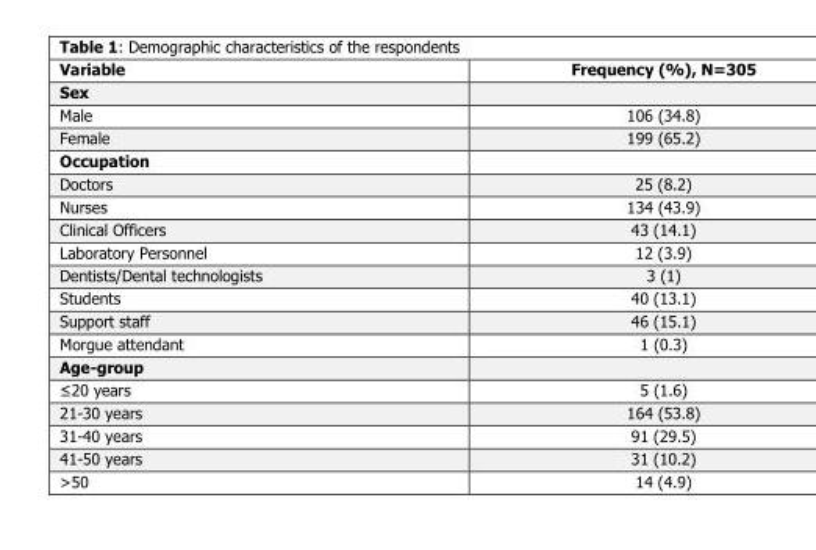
<table><thead><tr><td>Variable</td><td>Frequency (%), N=305</td></tr></thead><tbody><tr><td colspan="2">Sex</td></tr><tr><td>Male</td><td>106 (34.8)</td></tr><tr><td>Female</td><td>199 (65.2)</td></tr><tr><td colspan="2">Occupation</td></tr><tr><td>Doctors</td><td>25 (8.2)</td></tr><tr><td>Nurses</td><td>134 (43.9)</td></tr><tr><td>Clinical Officers</td><td>43 (14.1)</td></tr><tr><td>Laboratory Personnel</td><td>12 (3.9)</td></tr><tr><td>Dentists/Dental technologists</td><td>3 (1)</td></tr><tr><td>Students</td><td>40 (13.1)</td></tr><tr><td>Support staff</td><td>46 (15.1)</td></tr><tr><td>Morgue attendant</td><td>1 (0.3)</td></tr><tr><td colspan="2">Age-group</td></tr><tr><td>≤20 years</td><td>5 (1.6)</td></tr><tr><td>21-30 years</td><td>164 (53.8)</td></tr><tr><td>31-40 years</td><td>91 (29.5)</td></tr><tr><td>41-50 years</td><td>31 (10.2)</td></tr><tr><td>&gt;50</td><td>14 (4.9)</td></tr></tbody></table>